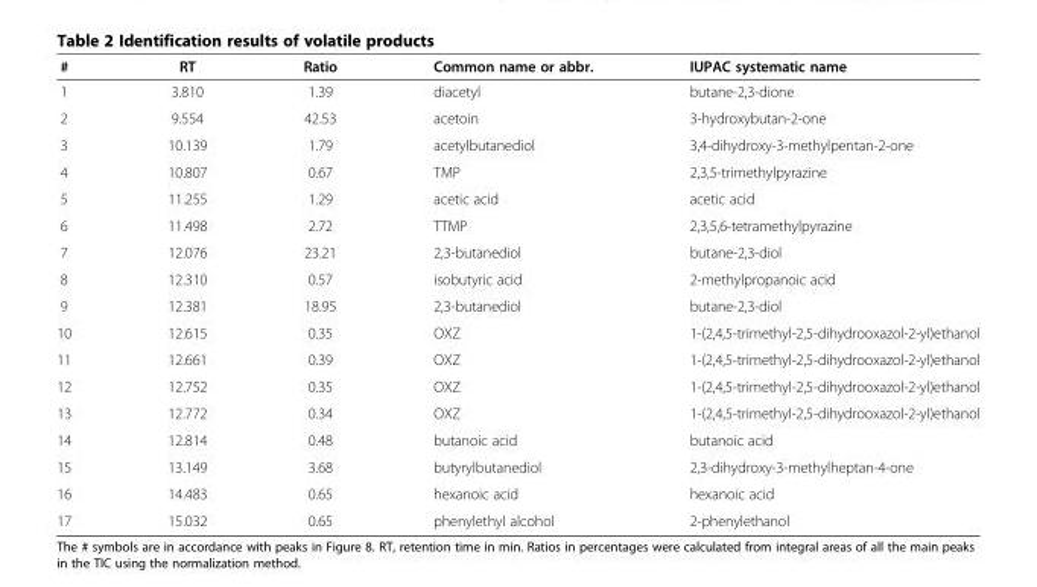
<table><thead><tr><td>#</td><td>RT</td><td>Ratio</td><td>Common name or abbr.</td><td>IUPAC systematic name</td></tr></thead><tbody><tr><td>1</td><td>3.810</td><td>1.39</td><td>diacetyl</td><td>butane-2,3-dione</td></tr><tr><td>2</td><td>9.554</td><td>42.53</td><td>acetoin</td><td>3-hydroxybutan-2-one</td></tr><tr><td>3</td><td>10.139</td><td>1.79</td><td>acetylbutanediol</td><td>3,4-dihydroxy-3-methylpentan-2-one</td></tr><tr><td>4</td><td>10.807</td><td>0.67</td><td>TMP</td><td>2,3,5-trimethylpyrazine</td></tr><tr><td>5</td><td>11.255</td><td>1.29</td><td>acetic acid</td><td>acetic acid</td></tr><tr><td>6</td><td>11.498</td><td>2.72</td><td>TTMP</td><td>2,3,5,6-tetramethylpyrazine</td></tr><tr><td>7</td><td>12.076</td><td>23.21</td><td>2,3-butanediol</td><td>butane-2,3-diol</td></tr><tr><td>8</td><td>12.310</td><td>0.57</td><td>isobutyric acid</td><td>2-methylpropanoic acid</td></tr><tr><td>9</td><td>12.381</td><td>18.95</td><td>2,3-butanediol</td><td>butane-2,3-diol</td></tr><tr><td>10</td><td>12.615</td><td>0.35</td><td>OXZ</td><td>1-(2,4,5-trimethyl-2,5-dihydrooxazol-2-yl)ethanol</td></tr><tr><td>11</td><td>12.661</td><td>0.39</td><td>OXZ</td><td>1-(2,4,5-trimethyl-2,5-dihydrooxazol-2-yl)ethanol</td></tr><tr><td>12</td><td>12.752</td><td>0.35</td><td>OXZ</td><td>1-(2,4,5-trimethyl-2,5-dihydrooxazol-2-yl)ethanol</td></tr><tr><td>13</td><td>12.772</td><td>0.34</td><td>OXZ</td><td>1-(2,4,5-trimethyl-2,5-dihydrooxazol-2-yl)ethanol</td></tr><tr><td>14</td><td>12.814</td><td>0.48</td><td>butanoic acid</td><td>butanoic acid</td></tr><tr><td>15</td><td>13.149</td><td>3.68</td><td>butyrylbutanediol</td><td>2,3-dihydroxy-3-methylheptan-4-one</td></tr><tr><td>16</td><td>14.483</td><td>0.65</td><td>hexanoic acid</td><td>hexanoic acid</td></tr><tr><td>17</td><td>15.032</td><td>0.65</td><td>phenylethyl alcohol</td><td>2-phenylethanol</td></tr></tbody></table>